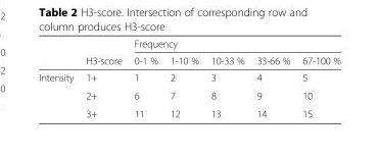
<table><thead><tr><td rowspan="2"></td><td rowspan="2">H3-score</td><td colspan="5">Frequency</td></tr><tr><td>0-1 %</td><td>1-10 %</td><td>10-33 %</td><td>33-66 %</td><td>67-100 %</td></tr></thead><tbody><tr><td rowspan="3">Intensity</td><td>1+</td><td>1</td><td>2</td><td>3</td><td>4</td><td>5</td></tr><tr><td>2+</td><td>6</td><td>7</td><td>8</td><td>9</td><td>10</td></tr><tr><td>3+</td><td>11</td><td>12</td><td>13</td><td>14</td><td>15</td></tr></tbody></table>